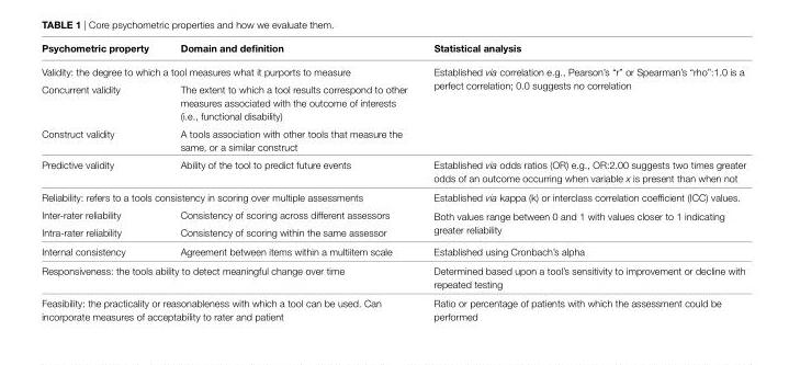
<table><thead><tr><td>Psychometric property</td><td>Domain and definition</td><td>Statistical analysis</td></tr></thead><tbody><tr><td colspan="2">Validity: the degree to which a tool measures what it purports to measure</td><td rowspan="3">Established via correlation e.g., Pearson’s “r” or Spearman’s “rho”:1.0 is a perfect correlation; 0.0 suggests no correlation</td></tr><tr><td>Concurrent validity</td><td>The extent to which a tool results correspond to other measures associated with the outcome of interests (i.e., functional disability)</td></tr><tr><td>Construct validity</td><td>A tools association with other tools that measure the same, or a similar construct</td></tr><tr><td>Predictive validity</td><td>Ability of the tool to predict future events</td><td>Established via odds ratios (OR) e.g., OR:2.00 suggests two times greater odds of an outcome occurring when variable x is present than when not</td></tr><tr><td colspan="2">Reliability: refers to a tools consistency in scoring over multiple assessments</td><td rowspan="3">Established via kappa (k) or interclass correlation coefficient (ICC) values. Both values range between 0 and 1 with values closer to 1 indicating greater reliability</td></tr><tr><td>Inter-rater reliability</td><td>Consistency of scoring across different assessors</td></tr><tr><td>Intra-rater reliability</td><td>Consistency of scoring within the same assessor</td></tr><tr><td>Internal consistency</td><td>Agreement between items within a multiitem scale</td><td>Established using Cronbach’s alpha</td></tr><tr><td colspan="2">Responsiveness: the tools ability to detect meaningful change over time</td><td>Determined based upon a tool’s sensitivity to improvement or decline with repeated testing</td></tr><tr><td colspan="2">Feasibility: the practicality or reasonableness with which a tool can be used. Can incorporate measures of acceptability to rater and patient</td><td>Ratio or percentage of patients with which the assessment could be performed</td></tr></tbody></table>